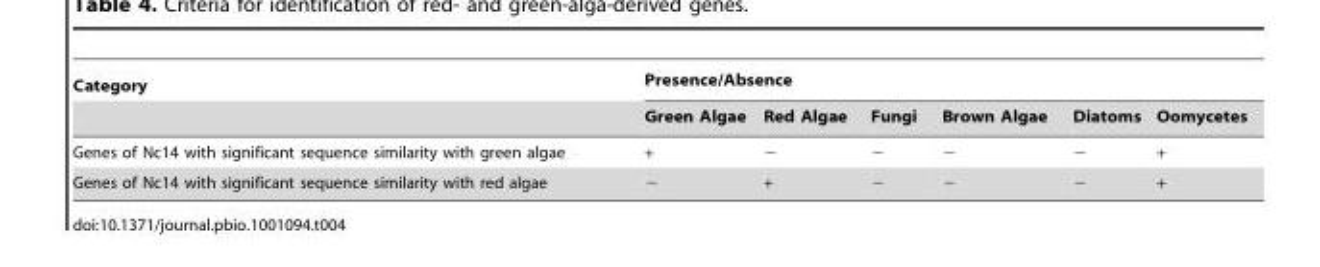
<table><thead><tr><td rowspan="2">Category</td><td colspan="6">Presence/Absence</td></tr><tr><td>Green Algae</td><td>Red Algae</td><td>Fungi</td><td>Brown Algae</td><td>Diatoms</td><td>Oomycetes</td></tr></thead><tbody><tr><td>Genes of Nc14 with significant sequence similarity with green algae</td><td>+</td><td>−</td><td>−</td><td>−</td><td>−</td><td>+</td></tr><tr><td>Genes of Nc14 with significant sequence similarity with red algae</td><td>−</td><td>+</td><td>−</td><td>−</td><td>−</td><td>+</td></tr></tbody></table>